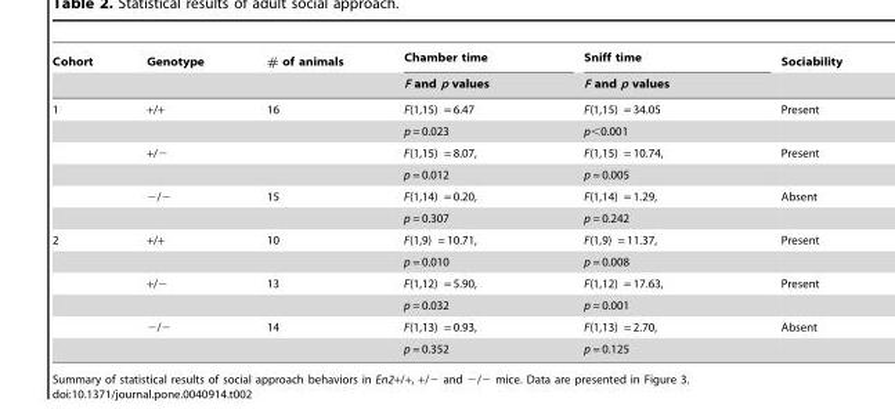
<table><thead><tr><td rowspan="2">Cohort</td><td rowspan="2">Genotype</td><td rowspan="2"># of animals</td><td rowspan="2">Chamber time F and p values</td><td rowspan="2">Sniff time F and p values</td><td rowspan="2">Sociability</td></tr><tr></tr></thead><tbody><tr><td rowspan="6">1</td><td>+/+</td><td>16</td><td>F(1,15) = 6.47</td><td>F(1,15) = 34.05</td><td>Present</td></tr><tr><td></td><td></td><td>p = 0.023</td><td>p&lt;0.001</td><td></td></tr><tr><td>+/−</td><td></td><td>F(1,15) = 8.07,</td><td>F(1,15) = 10.74,</td><td>Present</td></tr><tr><td></td><td></td><td>p = 0.012</td><td>p = 0.005</td><td></td></tr><tr><td>−/−</td><td>15</td><td>F(1,14) = 0.20,</td><td>F(1,14) = 1.29,</td><td>Absent</td></tr><tr><td></td><td></td><td>p = 0.307</td><td>p = 0.242</td><td></td></tr><tr><td rowspan="6">2</td><td>+/+</td><td>10</td><td>F(1,9) = 10.71,</td><td>F(1,9) = 11.37,</td><td>Present</td></tr><tr><td></td><td></td><td>p = 0.010</td><td>p = 0.008</td><td></td></tr><tr><td>+/−</td><td>13</td><td>F(1,12) = 5.90,</td><td>F(1,12) = 17.63,</td><td>Present</td></tr><tr><td></td><td></td><td>p = 0.032</td><td>p = 0.001</td><td></td></tr><tr><td>−/−</td><td>14</td><td>F(1,13) = 0.93,</td><td>F(1,13) = 2.70,</td><td>Absent</td></tr><tr><td></td><td></td><td>p = 0.352</td><td>p = 0.125</td><td></td></tr></tbody></table>